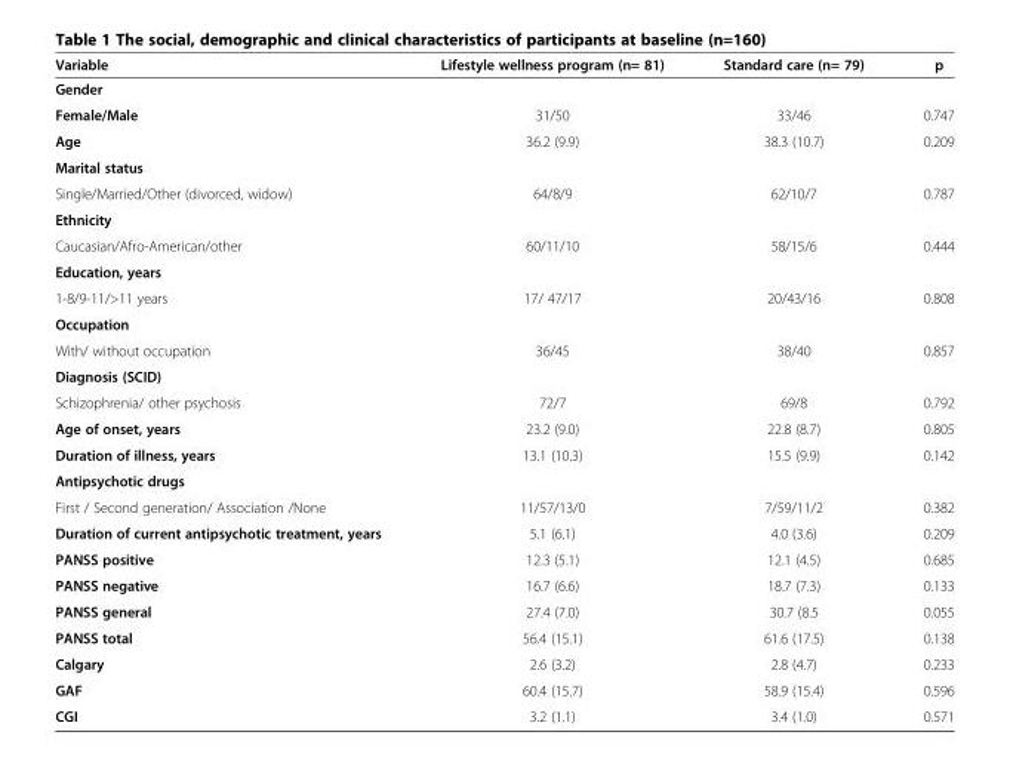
<table><thead><tr><td>Variable</td><td>Lifestyle wellness program (n= 81)</td><td>Standard care (n= 79)</td><td>p</td></tr></thead><tbody><tr><td colspan="4">Gender</td></tr><tr><td>Female/Male</td><td>31/50</td><td>33/46</td><td>0.747</td></tr><tr><td>Age</td><td>36.2 (9.9)</td><td>38.3 (10.7)</td><td>0.209</td></tr><tr><td colspan="4">Marital status</td></tr><tr><td>Single/Married/Other (divorced, widow)</td><td>64/8/9</td><td>62/10/7</td><td>0.787</td></tr><tr><td colspan="4">Ethnicity</td></tr><tr><td>Caucasian/Afro-American/other</td><td>60/11/10</td><td>58/15/6</td><td>0.444</td></tr><tr><td colspan="4">Education, years</td></tr><tr><td>1-8/9-11/&gt;11 years</td><td>17/ 47/17</td><td>20/43/16</td><td>0.808</td></tr><tr><td colspan="4">Occupation</td></tr><tr><td>With/ without occupation</td><td>36/45</td><td>38/40</td><td>0.857</td></tr><tr><td colspan="4">Diagnosis (SCID)</td></tr><tr><td>Schizophrenia/ other psychosis</td><td>72/7</td><td>69/8</td><td>0.792</td></tr><tr><td>Age of onset, years</td><td>23.2 (9.0)</td><td>22.8 (8.7)</td><td>0.805</td></tr><tr><td>Duration of illness, years</td><td>13.1 (10.3)</td><td>15.5 (9.9)</td><td>0.142</td></tr><tr><td colspan="4">Antipsychotic drugs</td></tr><tr><td>First / Second generation/ Association /None</td><td>11/57/13/0</td><td>7/59/11/2</td><td>0.382</td></tr><tr><td>Duration of current antipsychotic treatment, years</td><td>5.1 (6.1)</td><td>4.0 (3.6)</td><td>0.209</td></tr><tr><td>PANSS positive</td><td>12.3 (5.1)</td><td>12.1 (4.5)</td><td>0.685</td></tr><tr><td>PANSS negative</td><td>16.7 (6.6)</td><td>18.7 (7.3)</td><td>0.133</td></tr><tr><td>PANSS general</td><td>27.4 (7.0)</td><td>30.7 (8.5</td><td>0.055</td></tr><tr><td>PANSS total</td><td>56.4 (15.1)</td><td>61.6 (17.5)</td><td>0.138</td></tr><tr><td>Calgary</td><td>2.6 (3.2)</td><td>2.8 (4.7)</td><td>0.233</td></tr><tr><td>GAF</td><td>60.4 (15.7)</td><td>58.9 (15.4)</td><td>0.596</td></tr><tr><td>CGI</td><td>3.2 (1.1)</td><td>3.4 (1.0)</td><td>0.571</td></tr></tbody></table>